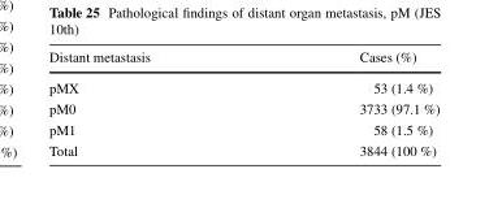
<table><thead><tr><td>Distant metastasis</td><td>Cases (%)</td></tr></thead><tbody><tr><td>pMX</td><td>53 (1.4 %)</td></tr><tr><td>pM0</td><td>3733 (97.1 %)</td></tr><tr><td>pM1</td><td>58 (1.5 %)</td></tr><tr><td>Total</td><td>3844 (100 %)</td></tr></tbody></table>